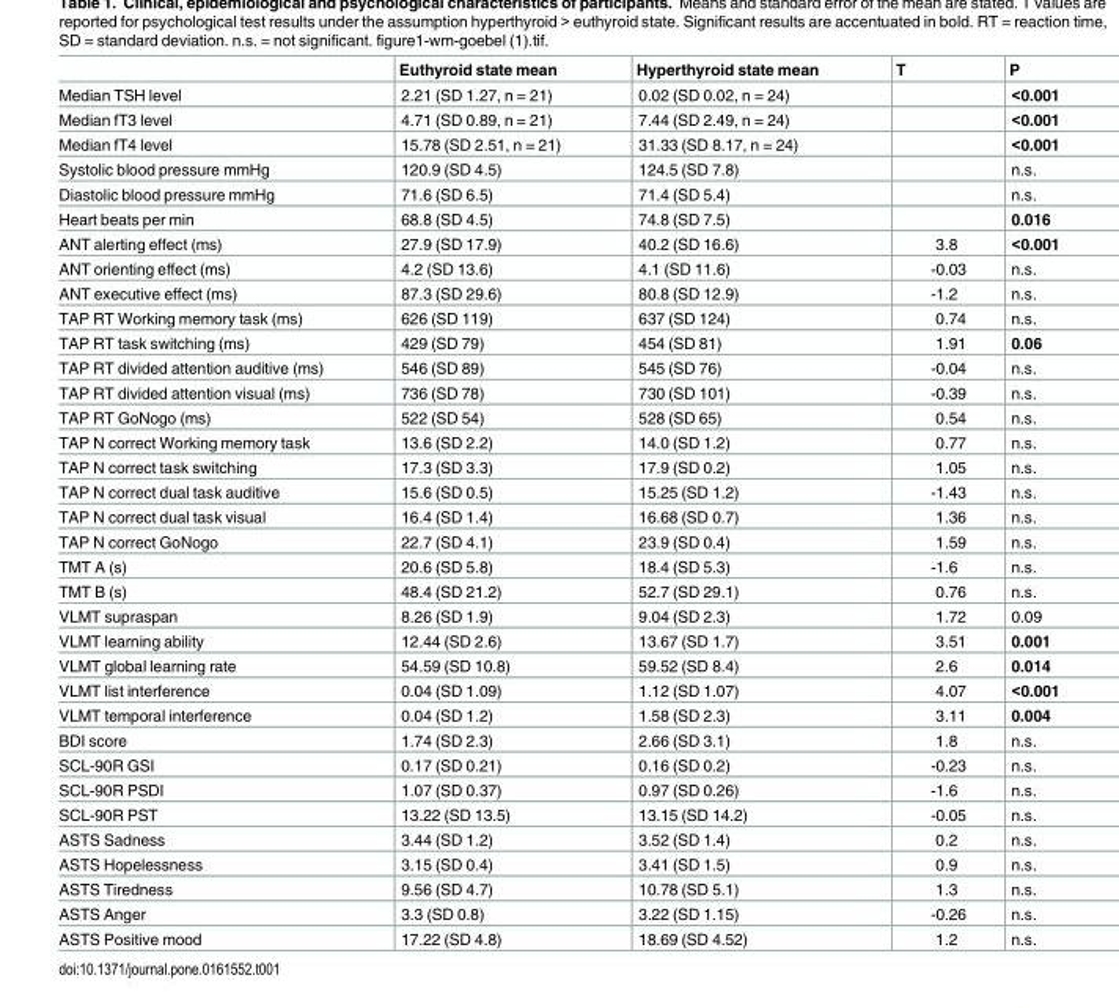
<table><thead><tr><td></td><td>Euthyroid state mean</td><td>Hyperthyroid state mean</td><td>T</td><td>P</td></tr></thead><tbody><tr><td>Median TSH level</td><td>2.21 (SD 1.27, n = 21)</td><td>0.02 (SD 0.02, n = 24)</td><td></td><td>&lt;0.001</td></tr><tr><td>Median fT3 level</td><td>4.71 (SD 0.89, n = 21)</td><td>7.44 (SD 2.49, n = 24)</td><td></td><td>&lt;0.001</td></tr><tr><td>Median fT4 level</td><td>15.78 (SD 2.51, n = 21)</td><td>31.33 (SD 8.17, n = 24)</td><td></td><td>&lt;0.001</td></tr><tr><td>Systolic blood pressure mmHg</td><td>120.9 (SD 4.5)</td><td>124.5 (SD 7.8)</td><td></td><td>n.s.</td></tr><tr><td>Diastolic blood pressure mmHg</td><td>71.6 (SD 6.5)</td><td>71.4 (SD 5.4)</td><td></td><td>n.s.</td></tr><tr><td>Heart beats per min</td><td>68.8 (SD 4.5)</td><td>74.8 (SD 7.5)</td><td></td><td>0.016</td></tr><tr><td>ANT alerting effect (ms)</td><td>27.9 (SD 17.9)</td><td>40.2 (SD 16.6)</td><td>3.8</td><td>&lt;0.001</td></tr><tr><td>ANT orienting effect (ms)</td><td>4.2 (SD 13.6)</td><td>4.1 (SD 11.6)</td><td>-0.03</td><td>n.s.</td></tr><tr><td>ANT executive effect (ms)</td><td>87.3 (SD 29.6)</td><td>80.8 (SD 12.9)</td><td>-1.2</td><td>n.s.</td></tr><tr><td>TAP RT Working memory task (ms)</td><td>626 (SD 119)</td><td>637 (SD 124)</td><td>0.74</td><td>n.s.</td></tr><tr><td>TAP RT task switching (ms)</td><td>429 (SD 79)</td><td>454 (SD 81)</td><td>1.91</td><td>0.06</td></tr><tr><td>TAP RT divided attention auditive (ms)</td><td>546 (SD 89)</td><td>545 (SD 76)</td><td>-0.04</td><td>n.s.</td></tr><tr><td>TAP RT divided attention visual (ms)</td><td>736 (SD 78)</td><td>730 (SD 101)</td><td>-0.39</td><td>n.s.</td></tr><tr><td>TAP RT GoNogo (ms)</td><td>522 (SD 54)</td><td>528 (SD 65)</td><td>0.54</td><td>n.s.</td></tr><tr><td>TAP N correct Working memory task</td><td>13.6 (SD 2.2)</td><td>14.0 (SD 1.2)</td><td>0.77</td><td>n.s.</td></tr><tr><td>TAP N correct task switching</td><td>17.3 (SD 3.3)</td><td>17.9 (SD 0.2)</td><td>1.05</td><td>n.s.</td></tr><tr><td>TAP N correct dual task auditive</td><td>15.6 (SD 0.5)</td><td>15.25 (SD 1.2)</td><td>-1.43</td><td>n.s.</td></tr><tr><td>TAP N correct dual task visual</td><td>16.4 (SD 1.4)</td><td>16.68 (SD 0.7)</td><td>1.36</td><td>n.s.</td></tr><tr><td>TAP N correct GoNogo</td><td>22.7 (SD 4.1)</td><td>23.9 (SD 0.4)</td><td>1.59</td><td>n.s.</td></tr><tr><td>TMT A (s)</td><td>20.6 (SD 5.8)</td><td>18.4 (SD 5.3)</td><td>-1.6</td><td>n.s.</td></tr><tr><td>TMT B (s)</td><td>48.4 (SD 21.2)</td><td>52.7 (SD 29.1)</td><td>0.76</td><td>n.s.</td></tr><tr><td>VLMT supraspan</td><td>8.26 (SD 1.9)</td><td>9.04 (SD 2.3)</td><td>1.72</td><td>0.09</td></tr><tr><td>VLMT learning ability</td><td>12.44 (SD 2.6)</td><td>13.67 (SD 1.7)</td><td>3.51</td><td>0.001</td></tr><tr><td>VLMT global learning rate</td><td>54.59 (SD 10.8)</td><td>59.52 (SD 8.4)</td><td>2.6</td><td>0.014</td></tr><tr><td>VLMT list interference</td><td>0.04 (SD 1.09)</td><td>1.12 (SD 1.07)</td><td>4.07</td><td>&lt;0.001</td></tr><tr><td>VLMT temporal interference</td><td>0.04 (SD 1.2)</td><td>1.58 (SD 2.3)</td><td>3.11</td><td>0.004</td></tr><tr><td>BDI score</td><td>1.74 (SD 2.3)</td><td>2.66 (SD 3.1)</td><td>1.8</td><td>n.s.</td></tr><tr><td>SCL-90R GSI</td><td>0.17 (SD 0.21)</td><td>0.16 (SD 0.2)</td><td>-0.23</td><td>n.s.</td></tr><tr><td>SCL-90R PSDI</td><td>1.07 (SD 0.37)</td><td>0.97 (SD 0.26)</td><td>-1.6</td><td>n.s.</td></tr><tr><td>SCL-90R PST</td><td>13.22 (SD 13.5)</td><td>13.15 (SD 14.2)</td><td>-0.05</td><td>n.s.</td></tr><tr><td>ASTS Sadness</td><td>3.44 (SD 1.2)</td><td>3.52 (SD 1.4)</td><td>0.2</td><td>n.s.</td></tr><tr><td>ASTS Hopelessness</td><td>3.15 (SD 0.4)</td><td>3.41 (SD 1.5)</td><td>0.9</td><td>n.s.</td></tr><tr><td>ASTS Tiredness</td><td>9.56 (SD 4.7)</td><td>10.78 (SD 5.1)</td><td>1.3</td><td>n.s.</td></tr><tr><td>ASTS Anger</td><td>3.3 (SD 0.8)</td><td>3.22 (SD 1.15)</td><td>-0.26</td><td>n.s.</td></tr><tr><td>ASTS Positive mood</td><td>17.22 (SD 4.8)</td><td>18.69 (SD 4.52)</td><td>1.2</td><td>n.s.</td></tr></tbody></table>